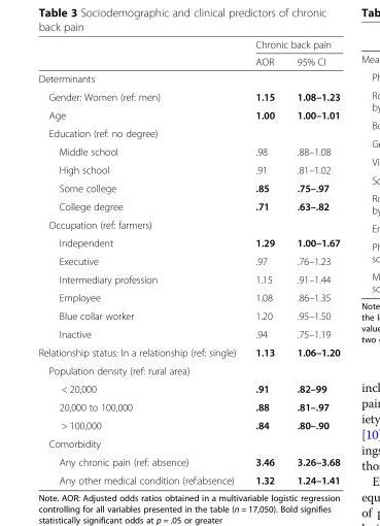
<table><thead><tr><td rowspan="2"></td><td colspan="2">Chronic back pain</td></tr><tr><td>AOR</td><td>95% CI</td></tr></thead><tbody><tr><td colspan="3">Determinants</td></tr><tr><td>Gender: Women (ref: men)</td><td>1.15</td><td>1.08–1.23</td></tr><tr><td>Age</td><td>1.00</td><td>1.00–1.01</td></tr><tr><td colspan="3">Education (ref: no degree)</td></tr><tr><td>Middle school</td><td>.98</td><td>.88–1.08</td></tr><tr><td>High school</td><td>.91</td><td>.81–1.02</td></tr><tr><td>Some college</td><td>.85</td><td>.75–.97</td></tr><tr><td>College degree</td><td>.71</td><td>.63–.82</td></tr><tr><td colspan="3">Occupation (ref: farmers)</td></tr><tr><td>Independent</td><td>1.29</td><td>1.00–1.67</td></tr><tr><td>Executive</td><td>.97</td><td>.76–1.23</td></tr><tr><td>Intermediary profession</td><td>1.15</td><td>.91–1.44</td></tr><tr><td>Employee</td><td>1.08</td><td>.86–1.35</td></tr><tr><td>Blue collar worker</td><td>1.20</td><td>.95–1.50</td></tr><tr><td>Inactive</td><td>.94</td><td>.75–1.19</td></tr><tr><td>Relationship status: In a relationship (ref: single)</td><td>1.13</td><td>1.06–1.20</td></tr><tr><td colspan="3">Population density (ref: rural area)</td></tr><tr><td>&lt; 20,000</td><td>.91</td><td>.82–99</td></tr><tr><td>20,000 to 100,000</td><td>.88</td><td>.81–.97</td></tr><tr><td>&gt; 100,000</td><td>.84</td><td>.80–.90</td></tr><tr><td colspan="3">Comorbidity</td></tr><tr><td>Any chronic pain (ref: absence)</td><td>3.46</td><td>3.26–3.68</td></tr><tr><td>Any other medical condition (ref:absence)</td><td>1.32</td><td>1.24–1.41</td></tr></tbody></table>